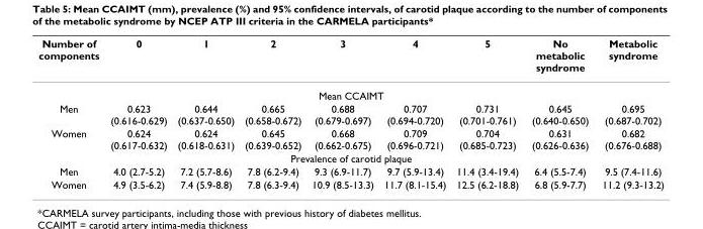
<table><thead><tr><td>Number of components</td><td>0</td><td>1</td><td>2</td><td>3</td><td>4</td><td>5</td><td>No metabolic syndrome</td><td>Metabolic syndrome</td></tr></thead><tbody><tr><td colspan="9">Mean CCAIMT</td></tr><tr><td>Men</td><td>0.623 (0.616-0.629)</td><td>0.644 (0.637-0.650)</td><td>0.665 (0.658-0.672)</td><td>0.688 (0.679-0.697)</td><td>0.707 (0.694-0.720)</td><td>0.731 (0.701-0.761)</td><td>0.645 (0.640-0.650)</td><td>0.695 (0.687-0.702)</td></tr><tr><td>Women</td><td>0.624 (0.617-0.632)</td><td>0.624 (0.618-0.631)</td><td>0.645 (0.639-0.652)</td><td>0.668 (0.662-0.675)</td><td>0.709 (0.696-0.721)</td><td>0.704 (0.685-0.723)</td><td>0.631 (0.626-0.636)</td><td>0.682 (0.676-0.688)</td></tr><tr><td colspan="9">Prevalence of carotid plaque</td></tr><tr><td>Men</td><td>4.0 (2.7-5.2)</td><td>7.2 (5.7-8.6)</td><td>7.8 (6.2-9.4)</td><td>9.3 (6.9-11.7)</td><td>9.7 (5.9-13.4)</td><td>11.4 (3.4-19.4)</td><td>6.4 (5.5-7.4)</td><td>9.5 (7.4-11.6)</td></tr><tr><td>Women</td><td>4.9 (3.5-6.2)</td><td>7.4 (5.9-8.8)</td><td>7.8 (6.3-9.4)</td><td>10.9 (8.5-13.3)</td><td>11.7 (8.1-15.4)</td><td>12.5 (6.2-18.8)</td><td>6.8 (5.9-7.7)</td><td>11.2 (9.3-13.2)</td></tr></tbody></table>